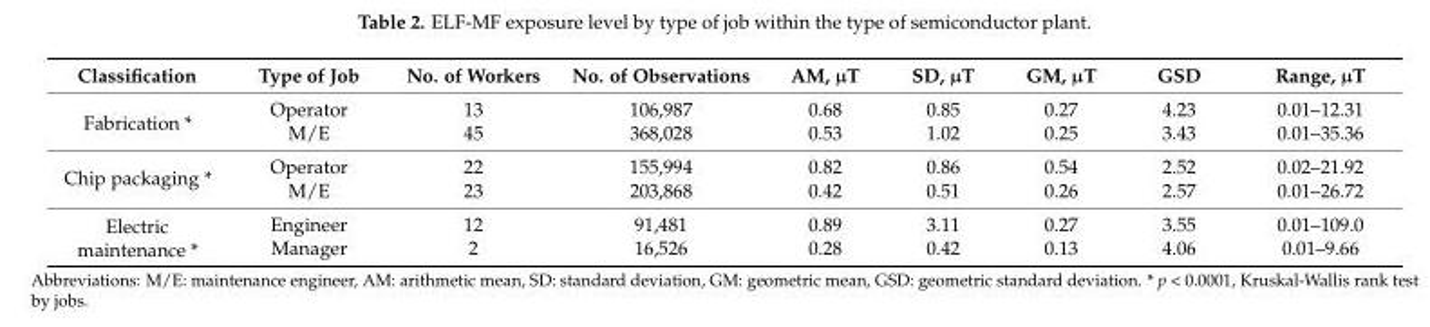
<table><thead><tr><td>Classification</td><td>Type of Job</td><td>No. of Workers</td><td>No. of Observations</td><td>AM, µT</td><td>SD, µT</td><td>GM, µT</td><td>GSD</td><td>Range, µT</td></tr></thead><tbody><tr><td rowspan="2">Fabrication *</td><td>Operator</td><td>13</td><td>106,987</td><td>0.68</td><td>0.85</td><td>0.27</td><td>4.23</td><td>0.01–12.31</td></tr><tr><td>M/E</td><td>45</td><td>368,028</td><td>0.53</td><td>1.02</td><td>0.25</td><td>3.43</td><td>0.01–35.36</td></tr><tr><td rowspan="2">Chip packaging *</td><td>Operator</td><td>22</td><td>155,994</td><td>0.82</td><td>0.86</td><td>0.54</td><td>2.52</td><td>0.02–21.92</td></tr><tr><td>M/E</td><td>23</td><td>203,868</td><td>0.42</td><td>0.51</td><td>0.26</td><td>2.57</td><td>0.01–26.72</td></tr><tr><td rowspan="2">Electric maintenance *</td><td>Engineer</td><td>12</td><td>91,481</td><td>0.89</td><td>3.11</td><td>0.27</td><td>3.55</td><td>0.01–109.0</td></tr><tr><td>Manager</td><td>2</td><td>16,526</td><td>0.28</td><td>0.42</td><td>0.13</td><td>4.06</td><td>0.01–9.66</td></tr></tbody></table>